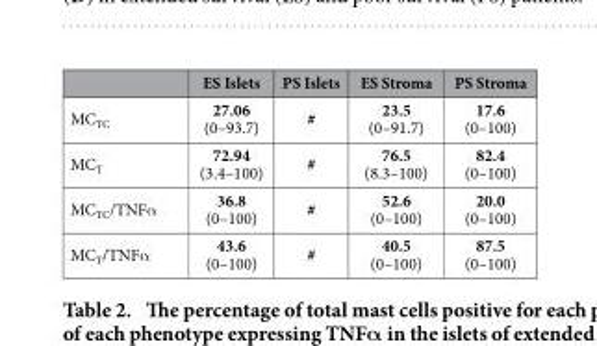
<table><thead><tr><td></td><td>ES Islets</td><td>PS Islets</td><td>ES Stroma</td><td>PS Stroma</td></tr></thead><tbody><tr><td>MC<sub>TC</sub></td><td>27.06 (0–93.7)</td><td>#</td><td>23.5 (0–91.7)</td><td>17.6 (0–100)</td></tr><tr><td>MC<sub>T</sub></td><td>72.94 (3.4–100)</td><td>#</td><td>76.5 (8.3–100)</td><td>82.4 (0–100)</td></tr><tr><td>MC<sub>TC</sub>/TNFα</td><td>36.8 (0–100)</td><td>#</td><td>52.6 (0–100)</td><td>20.0 (0–100)</td></tr><tr><td>MC<sub>T</sub>/TNFα</td><td>43.6 (0–100)</td><td>#</td><td>40.5 (0–100)</td><td>87.5 (0–100)</td></tr></tbody></table>